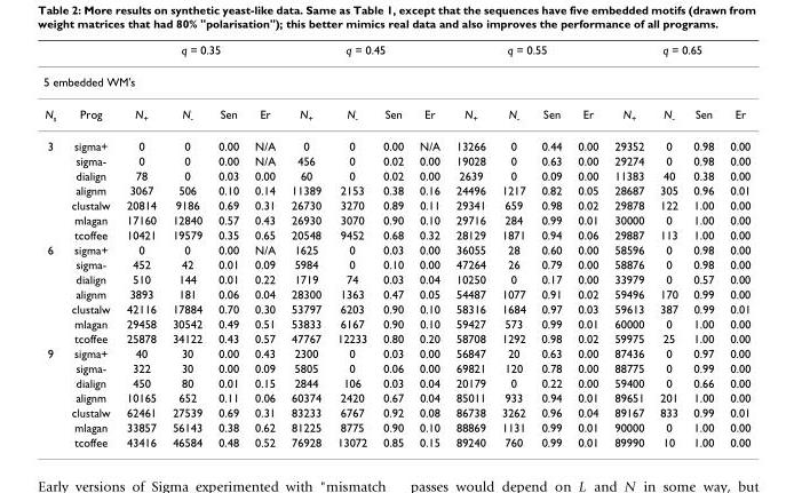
<table><thead><tr><td></td><td></td><td colspan="4">q = 0.35</td><td colspan="4">q = 0.45</td><td colspan="4">q = 0.55</td><td colspan="4">q = 0.65</td></tr><tr><td colspan="18">5 embedded WM&#x27;s</td></tr><tr><td>N<sub>s</sub></td><td>Prog</td><td>N<sub>+</sub></td><td>N<sub>-</sub></td><td>Sen</td><td>Er</td><td>N<sub>+</sub></td><td>N<sub>-</sub></td><td>Sen</td><td>Er</td><td>N<sub>+</sub></td><td>N<sub>-</sub></td><td>Sen</td><td>Er</td><td>N<sub>+</sub></td><td>N<sub>-</sub></td><td>Sen</td><td>Er</td></tr></thead><tbody><tr><td rowspan="7">3</td><td>sigma+</td><td>0</td><td>0</td><td>0.00</td><td>N/A</td><td>0</td><td>0</td><td>0.00</td><td>N/A</td><td>13266</td><td>0</td><td>0.44</td><td>0.00</td><td>29352</td><td>0</td><td>0.98</td><td>0.00</td></tr><tr><td>sigma-</td><td>0</td><td>0</td><td>0.00</td><td>N/A</td><td>456</td><td>0</td><td>0.02</td><td>0.00</td><td>19028</td><td>0</td><td>0.63</td><td>0.00</td><td>29274</td><td>0</td><td>0.98</td><td>0.00</td></tr><tr><td>dialign</td><td>78</td><td>0</td><td>0.03</td><td>0.00</td><td>60</td><td>0</td><td>0.02</td><td>0.00</td><td>2639</td><td>0</td><td>0.09</td><td>0.00</td><td>11383</td><td>40</td><td>0.38</td><td>0.00</td></tr><tr><td>alignm</td><td>3067</td><td>506</td><td>0.10</td><td>0.14</td><td>11389</td><td>2153</td><td>0.38</td><td>0.16</td><td>24496</td><td>1217</td><td>0.82</td><td>0.05</td><td>28687</td><td>305</td><td>0.96</td><td>0.01</td></tr><tr><td>clustalw</td><td>20814</td><td>9186</td><td>0.69</td><td>0.31</td><td>26730</td><td>3270</td><td>0.89</td><td>0.11</td><td>29341</td><td>659</td><td>0.98</td><td>0.02</td><td>29878</td><td>122</td><td>1.00</td><td>0.00</td></tr><tr><td>mlagan</td><td>17160</td><td>12840</td><td>0.57</td><td>0.43</td><td>26930</td><td>3070</td><td>0.90</td><td>0.10</td><td>29716</td><td>284</td><td>0.99</td><td>0.01</td><td>30000</td><td>0</td><td>1.00</td><td>0.00</td></tr><tr><td>tcoffee</td><td>10421</td><td>19579</td><td>0.35</td><td>0.65</td><td>20548</td><td>9452</td><td>0.68</td><td>0.32</td><td>28129</td><td>1871</td><td>0.94</td><td>0.06</td><td>29887</td><td>113</td><td>1.00</td><td>0.00</td></tr><tr><td rowspan="7">6</td><td>sigma+</td><td>0</td><td>0</td><td>0.00</td><td>N/A</td><td>1625</td><td>0</td><td>0.03</td><td>0.00</td><td>36055</td><td>28</td><td>0.60</td><td>0.00</td><td>58596</td><td>0</td><td>0.98</td><td>0.00</td></tr><tr><td>sigma-</td><td>452</td><td>42</td><td>0.01</td><td>0.09</td><td>5984</td><td>0</td><td>0.10</td><td>0.00</td><td>47264</td><td>26</td><td>0.79</td><td>0.00</td><td>58876</td><td>0</td><td>0.98</td><td>0.00</td></tr><tr><td>dialign</td><td>510</td><td>144</td><td>0.01</td><td>0.22</td><td>1719</td><td>74</td><td>0.03</td><td>0.04</td><td>10250</td><td>0</td><td>0.17</td><td>0.00</td><td>33979</td><td>0</td><td>0.57</td><td>0.00</td></tr><tr><td>alignm</td><td>3893</td><td>181</td><td>0.06</td><td>0.04</td><td>28300</td><td>1363</td><td>0.47</td><td>0.05</td><td>54487</td><td>1077</td><td>0.91</td><td>0.02</td><td>59496</td><td>170</td><td>0.99</td><td>0.00</td></tr><tr><td>clustalw</td><td>42116</td><td>17884</td><td>0.70</td><td>0.30</td><td>53797</td><td>6203</td><td>0.90</td><td>0.10</td><td>58316</td><td>1684</td><td>0.97</td><td>0.03</td><td>59613</td><td>387</td><td>0.99</td><td>0.01</td></tr><tr><td>mlagan</td><td>29458</td><td>30542</td><td>0.49</td><td>0.51</td><td>53833</td><td>6167</td><td>0.90</td><td>0.10</td><td>59427</td><td>573</td><td>0.99</td><td>0.01</td><td>60000</td><td>0</td><td>1.00</td><td>0.00</td></tr><tr><td>tcoffee</td><td>25878</td><td>34122</td><td>0.43</td><td>0.57</td><td>47767</td><td>12233</td><td>0.80</td><td>0.20</td><td>58708</td><td>1292</td><td>0.98</td><td>0.02</td><td>59975</td><td>25</td><td>1.00</td><td>0.00</td></tr><tr><td rowspan="7">9</td><td>sigma+</td><td>40</td><td>30</td><td>0.00</td><td>0.43</td><td>2300</td><td>0</td><td>0.03</td><td>0.00</td><td>56847</td><td>20</td><td>0.63</td><td>0.00</td><td>87436</td><td>0</td><td>0.97</td><td>0.00</td></tr><tr><td>sigma-</td><td>322</td><td>30</td><td>0.00</td><td>0.09</td><td>5805</td><td>0</td><td>0.06</td><td>0.00</td><td>69821</td><td>120</td><td>0.78</td><td>0.00</td><td>88775</td><td>0</td><td>0.99</td><td>0.00</td></tr><tr><td>dialign</td><td>450</td><td>80</td><td>0.01</td><td>0.15</td><td>2844</td><td>106</td><td>0.03</td><td>0.04</td><td>20179</td><td>0</td><td>0.22</td><td>0.00</td><td>59400</td><td>0</td><td>0.66</td><td>0.00</td></tr><tr><td>alignm</td><td>10165</td><td>652</td><td>0.11</td><td>0.06</td><td>60374</td><td>2420</td><td>0.67</td><td>0.04</td><td>85011</td><td>933</td><td>0.94</td><td>0.01</td><td>89651</td><td>201</td><td>1.00</td><td>0.00</td></tr><tr><td>clustalw</td><td>62461</td><td>27539</td><td>0.69</td><td>0.31</td><td>83233</td><td>6767</td><td>0.92</td><td>0.08</td><td>86738</td><td>3262</td><td>0.96</td><td>0.04</td><td>89167</td><td>833</td><td>0.99</td><td>0.01</td></tr><tr><td>mlagan</td><td>33857</td><td>56143</td><td>0.38</td><td>0.62</td><td>81225</td><td>8775</td><td>0.90</td><td>0.10</td><td>88869</td><td>1131</td><td>0.99</td><td>0.01</td><td>90000</td><td>0</td><td>1.00</td><td>0.00</td></tr><tr><td>tcoffee</td><td>43416</td><td>46584</td><td>0.48</td><td>0.52</td><td>76928</td><td>13072</td><td>0.85</td><td>0.15</td><td>89240</td><td>760</td><td>0.99</td><td>0.01</td><td>89990</td><td>10</td><td>1.00</td><td>0.00</td></tr></tbody></table>